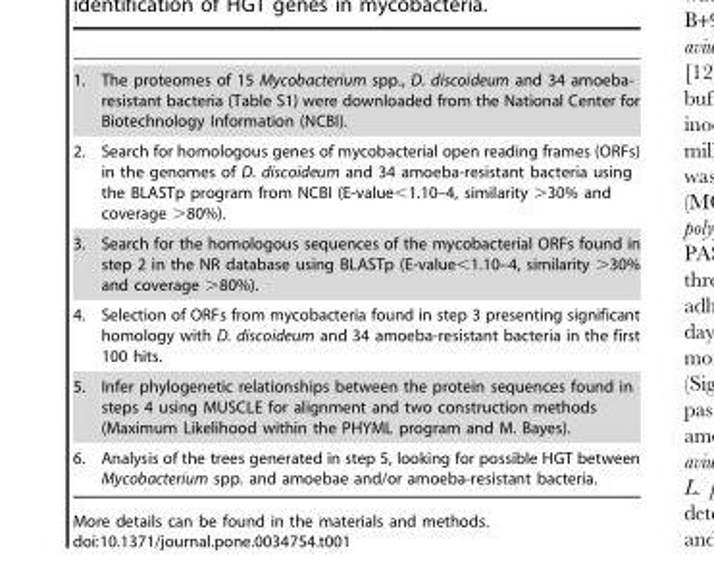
<table><tbody><tr><td>1.</td><td>The proteomes of 15 Mycobacterium spp., D. discoideum and 34 amoeba- resistant bacteria (Table S1) were downloaded from the National Center for Biotechnology Information (NCBI).</td></tr><tr><td>2.</td><td>Search for homologous genes of mycobacterial open reading frames (ORFs) in the genomes of D. discoideum and 34 amoeba-resistant bacteria using the BLASTp program from NCBI (E-value&lt;1.10–4, similarity &gt;30% and coverage &gt;80%).</td></tr><tr><td>3.</td><td>Search for the homologous sequences of the mycobacterial ORFs found in step 2 in the NR database using BLASTp (E-value&lt;1.10–4, similarity &gt;30% and coverage &gt;80%).</td></tr><tr><td>4.</td><td>Selection of ORFs from mycobacteria found in step 3 presenting significant homology with D. discoideum and 34 amoeba-resistant bacteria in the first 100 hits.</td></tr><tr><td>5.</td><td>Infer phylogenetic relationships between the protein sequences found in steps 4 using MUSCLE for alignment and two construction methods (Maximum Likelihood within the PHYML program and M. Bayes).</td></tr><tr><td>6.</td><td>Analysis of the trees generated in step 5, looking for possible HGT between Mycobacterium spp. and amoebae and/or amoeba-resistant bacteria.</td></tr></tbody></table>